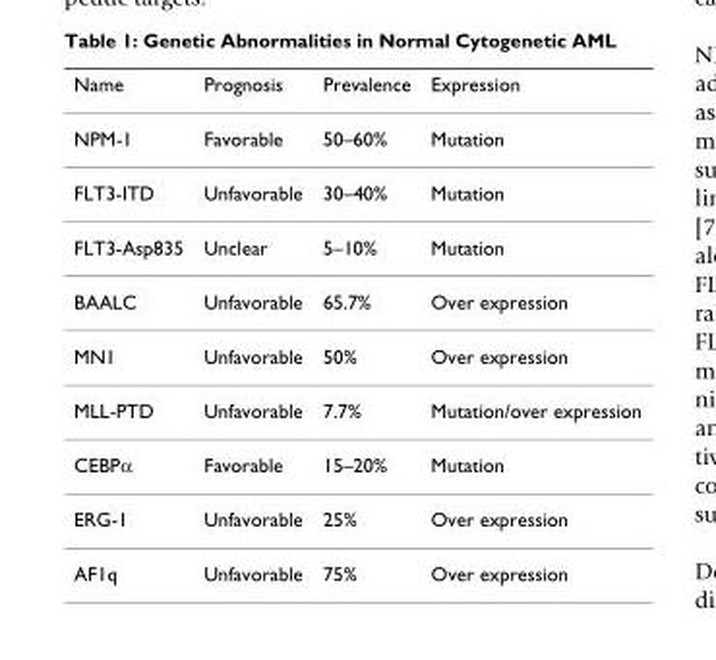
<table><thead><tr><td>Name</td><td>Prognosis</td><td>Prevalence</td><td>Expression</td></tr></thead><tbody><tr><td>NPM-1</td><td>Favorable</td><td>50–60%</td><td>Mutation</td></tr><tr><td>FLT3-ITD</td><td>Unfavorable</td><td>30–40%</td><td>Mutation</td></tr><tr><td>FLT3-Asp835</td><td>Unclear</td><td>5–10%</td><td>Mutation</td></tr><tr><td>BAALC</td><td>Unfavorable</td><td>65.7%</td><td>Over expression</td></tr><tr><td>MN1</td><td>Unfavorable</td><td>50%</td><td>Over expression</td></tr><tr><td>MLL-PTD</td><td>Unfavorable</td><td>7.7%</td><td>Mutation/over expression</td></tr><tr><td>CEBPα</td><td>Favorable</td><td>15–20%</td><td>Mutation</td></tr><tr><td>ERG-1</td><td>Unfavorable</td><td>25%</td><td>Over expression</td></tr><tr><td>AF1q</td><td>Unfavorable</td><td>75%</td><td>Over expression</td></tr></tbody></table>